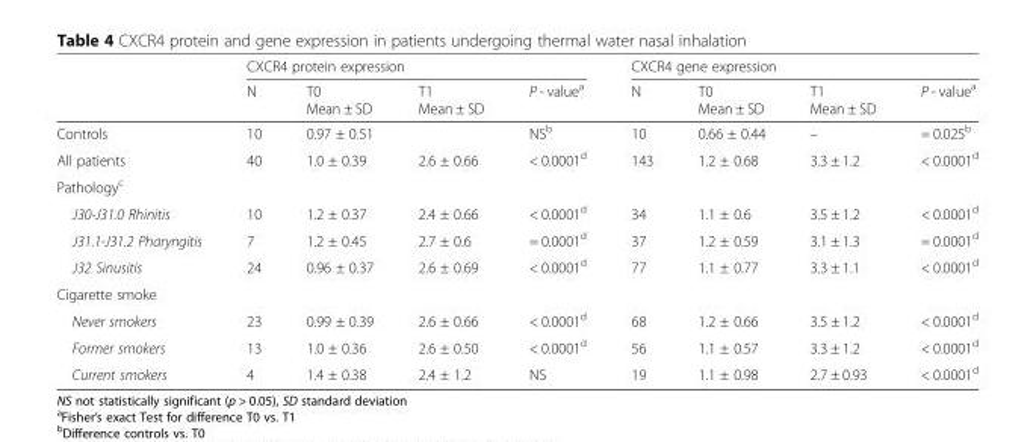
<table><thead><tr><td rowspan="2"></td><td colspan="4">CXCR4 protein expression</td><td colspan="4">CXCR4 gene expression</td></tr><tr><td>N</td><td>T0 Mean ± SD</td><td>T1 Mean ± SD</td><td>P - valuea</td><td>N</td><td>T0 Mean ± SD</td><td>T1 Mean ± SD</td><td>P - valuea</td></tr></thead><tbody><tr><td>Controls</td><td>10</td><td>0.97 ± 0.51</td><td></td><td>NSb</td><td>10</td><td>0.66 ± 0.44</td><td>–</td><td>= 0.025b</td></tr><tr><td>All patients</td><td>40</td><td>1.0 ± 0.39</td><td>2.6 ± 0.66</td><td>&lt; 0.0001d</td><td>143</td><td>1.2 ± 0.68</td><td>3.3 ± 1.2</td><td>&lt; 0.0001d</td></tr><tr><td colspan="9">Pathologyc</td></tr><tr><td>J30-J31.0 Rhinitis</td><td>10</td><td>1.2 ± 0.37</td><td>2.4 ± 0.66</td><td>&lt; 0.0001d</td><td>34</td><td>1.1 ± 0.6</td><td>3.5 ± 1.2</td><td>&lt; 0.0001d</td></tr><tr><td>J31.1-J31.2 Pharyngitis</td><td>7</td><td>1.2 ± 0.45</td><td>2.7 ± 0.6</td><td>= 0.0001d</td><td>37</td><td>1.2 ± 0.59</td><td>3.1 ± 1.3</td><td>= 0.0001d</td></tr><tr><td>J32 Sinusitis</td><td>24</td><td>0.96 ± 0.37</td><td>2.6 ± 0.69</td><td>&lt; 0.0001d</td><td>77</td><td>1.1 ± 0.77</td><td>3.3 ± 1.1</td><td>&lt; 0.0001d</td></tr><tr><td colspan="9">Cigarette smoke</td></tr><tr><td>Never smokers</td><td>23</td><td>0.99 ± 0.39</td><td>2.6 ± 0.66</td><td>&lt; 0.0001d</td><td>68</td><td>1.2 ± 0.66</td><td>3.5 ± 1.2</td><td>&lt; 0.0001d</td></tr><tr><td>Former smokers</td><td>13</td><td>1.0 ± 0.36</td><td>2.6 ± 0.50</td><td>&lt; 0.0001d</td><td>56</td><td>1.1 ± 0.57</td><td>3.3 ± 1.2</td><td>&lt; 0.0001d</td></tr><tr><td>Current smokers</td><td>4</td><td>1.4 ± 0.38</td><td>2.4 ± 1.2</td><td>NS</td><td>19</td><td>1.1 ± 0.98</td><td>2.7 ± 0.93</td><td>&lt; 0.0001d</td></tr></tbody></table>